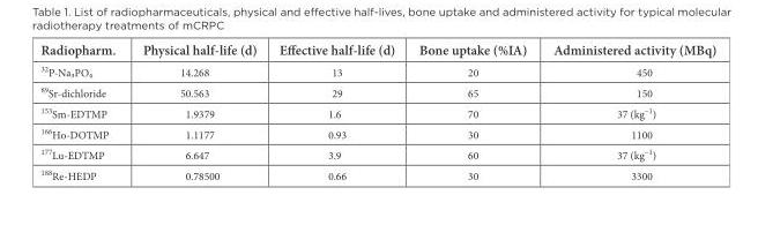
<table><thead><tr><td>Radiopharm.</td><td>Physical half-life (d)</td><td>Effective half-life (d)</td><td>Bone uptake (%IA)</td><td>Administered activity (MBq)</td></tr></thead><tbody><tr><td><sup>32</sup>P-Na₃PO₄</td><td>14.268</td><td>13</td><td>20</td><td>450</td></tr><tr><td><sup>89</sup>Sr-dichloride</td><td>50.563</td><td>29</td><td>65</td><td>150</td></tr><tr><td><sup>153</sup>Sm-EDTMP</td><td>1.9379</td><td>1.6</td><td>70</td><td>37 (kg<sup>–1</sup>)</td></tr><tr><td><sup>166</sup>Ho-DOTMP</td><td>1.1177</td><td>0.93</td><td>30</td><td>1100</td></tr><tr><td><sup>177</sup>Lu-EDTMP</td><td>6.647</td><td>3.9</td><td>60</td><td>37 (kg<sup>–1</sup>)</td></tr><tr><td><sup>188</sup>Re-HEDP</td><td>0.78500</td><td>0.66</td><td>30</td><td>3300</td></tr></tbody></table>